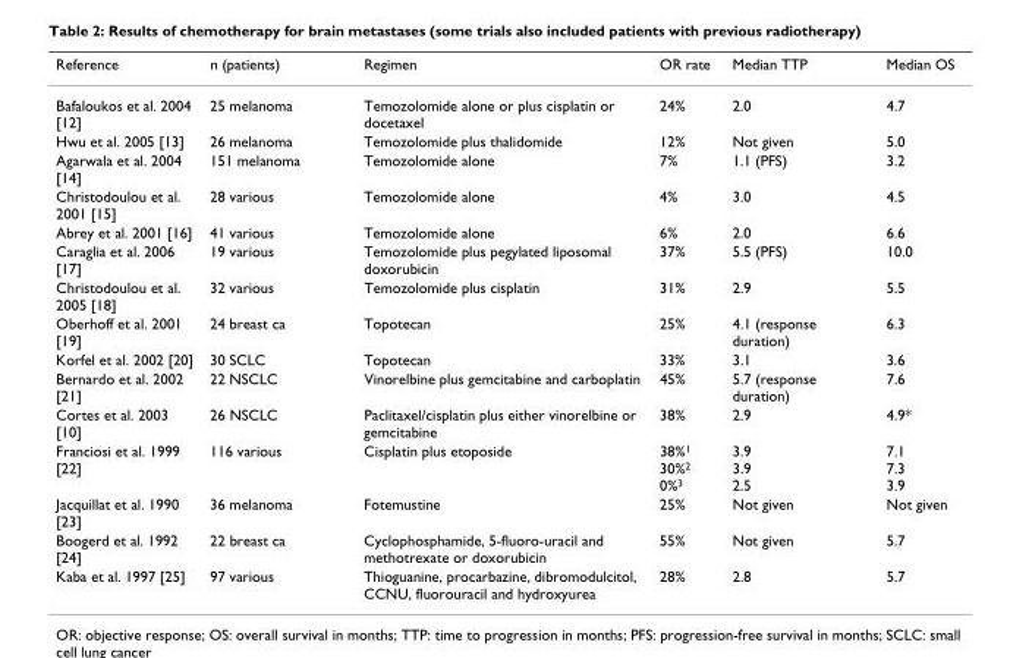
<table><thead><tr><td>Reference</td><td>n (patients)</td><td>Regimen</td><td>OR rate</td><td>Median TTP</td><td>Median OS</td></tr></thead><tbody><tr><td>Bafaloukos et al. 2004 [12]</td><td>25 melanoma</td><td>Temozolomide alone or plus cisplatin or docetaxel</td><td>24%</td><td>2.0</td><td>4.7</td></tr><tr><td>Hwu et al. 2005 [13]</td><td>26 melanoma</td><td>Temozolomide plus thalidomide</td><td>12%</td><td>Not given</td><td>5.0</td></tr><tr><td>Agarwala et al. 2004 [14]</td><td>151 melanoma</td><td>Temozolomide alone</td><td>7%</td><td>1.1 (PFS)</td><td>3.2</td></tr><tr><td>Christodoulou et al. 2001 [15]</td><td>28 various</td><td>Temozolomide alone</td><td>4%</td><td>3.0</td><td>4.5</td></tr><tr><td>Abrey et al. 2001 [16]</td><td>41 various</td><td>Temozolomide alone</td><td>6%</td><td>2.0</td><td>6.6</td></tr><tr><td>Caraglia et al. 2006 [17]</td><td>19 various</td><td>Temozolomide plus pegylated liposomal doxorubicin</td><td>37%</td><td>5.5 (PFS)</td><td>10.0</td></tr><tr><td>Christodoulou et al. 2005 [18]</td><td>32 various</td><td>Temozolomide plus cisplatin</td><td>31%</td><td>2.9</td><td>5.5</td></tr><tr><td>Oberhoff et al. 2001 [19]</td><td>24 breast ca</td><td>Topotecan</td><td>25%</td><td>4.1 (response duration)</td><td>6.3</td></tr><tr><td>Korfel et al. 2002 [20]</td><td>30 SCLC</td><td>Topotecan</td><td>33%</td><td>3.1</td><td>3.6</td></tr><tr><td>Bernardo et al. 2002 [21]</td><td>22 NSCLC</td><td>Vinorelbine plus gemcitabine and carboplatin</td><td>45%</td><td>5.7 (response duration)</td><td>7.6</td></tr><tr><td>Cortes et al. 2003 [10]</td><td>26 NSCLC</td><td>Paclitaxel/cisplatin plus either vinorelbine or gemcitabine</td><td>38%</td><td>2.9</td><td>4.9*</td></tr><tr><td>Franciosi et al. 1999 [22]</td><td>116 various</td><td>Cisplatin plus etoposide</td><td>38%<sup>1</sup> 30%<sup>2</sup> 0%<sup>3</sup></td><td>3.9 3.9 2.5</td><td>7.1 7.3 3.9</td></tr><tr><td>Jacquillat et al. 1990 [23]</td><td>36 melanoma</td><td>Fotemustine</td><td>25%</td><td>Not given</td><td>Not given</td></tr><tr><td>Boogerd et al. 1992 [24]</td><td>22 breast ca</td><td>Cyclophosphamide, 5-fluoro-uracil and methotrexate or doxorubicin</td><td>55%</td><td>Not given</td><td>5.7</td></tr><tr><td>Kaba et al. 1997 [25]</td><td>97 various</td><td>Thioguanine, procarbazine, dibromodulcitol, CCNU, fluorouracil and hydroxyurea</td><td>28%</td><td>2.8</td><td>5.7</td></tr></tbody></table>